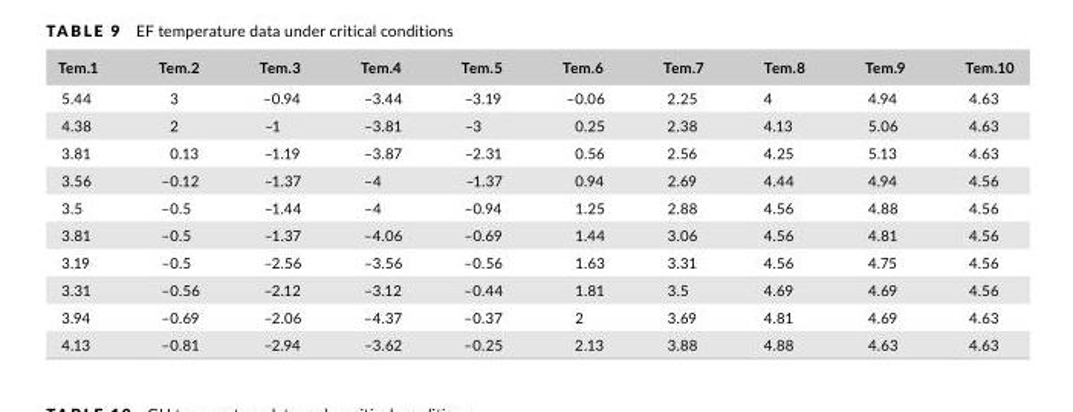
<table><thead><tr><td>Tem.1</td><td>Tem.2</td><td>Tem.3</td><td>Tem.4</td><td>Tem.5</td><td>Tem.6</td><td>Tem.7</td><td>Tem.8</td><td>Tem.9</td><td>Tem.10</td></tr></thead><tbody><tr><td>5.44</td><td>3</td><td>–0.94</td><td>–3.44</td><td>–3.19</td><td>–0.06</td><td>2.25</td><td>4</td><td>4.94</td><td>4.63</td></tr><tr><td>4.38</td><td>2</td><td>–1</td><td>–3.81</td><td>–3</td><td>0.25</td><td>2.38</td><td>4.13</td><td>5.06</td><td>4.63</td></tr><tr><td>3.81</td><td>0.13</td><td>–1.19</td><td>–3.87</td><td>–2.31</td><td>0.56</td><td>2.56</td><td>4.25</td><td>5.13</td><td>4.63</td></tr><tr><td>3.56</td><td>–0.12</td><td>–1.37</td><td>–4</td><td>–1.37</td><td>0.94</td><td>2.69</td><td>4.44</td><td>4.94</td><td>4.56</td></tr><tr><td>3.5</td><td>–0.5</td><td>–1.44</td><td>–4</td><td>–0.94</td><td>1.25</td><td>2.88</td><td>4.56</td><td>4.88</td><td>4.56</td></tr><tr><td>3.81</td><td>–0.5</td><td>–1.37</td><td>–4.06</td><td>–0.69</td><td>1.44</td><td>3.06</td><td>4.56</td><td>4.81</td><td>4.56</td></tr><tr><td>3.19</td><td>–0.5</td><td>–2.56</td><td>–3.56</td><td>–0.56</td><td>1.63</td><td>3.31</td><td>4.56</td><td>4.75</td><td>4.56</td></tr><tr><td>3.31</td><td>–0.56</td><td>–2.12</td><td>–3.12</td><td>–0.44</td><td>1.81</td><td>3.5</td><td>4.69</td><td>4.69</td><td>4.56</td></tr><tr><td>3.94</td><td>–0.69</td><td>–2.06</td><td>–4.37</td><td>–0.37</td><td>2</td><td>3.69</td><td>4.81</td><td>4.69</td><td>4.63</td></tr><tr><td>4.13</td><td>–0.81</td><td>–2.94</td><td>–3.62</td><td>–0.25</td><td>2.13</td><td>3.88</td><td>4.88</td><td>4.63</td><td>4.63</td></tr></tbody></table>